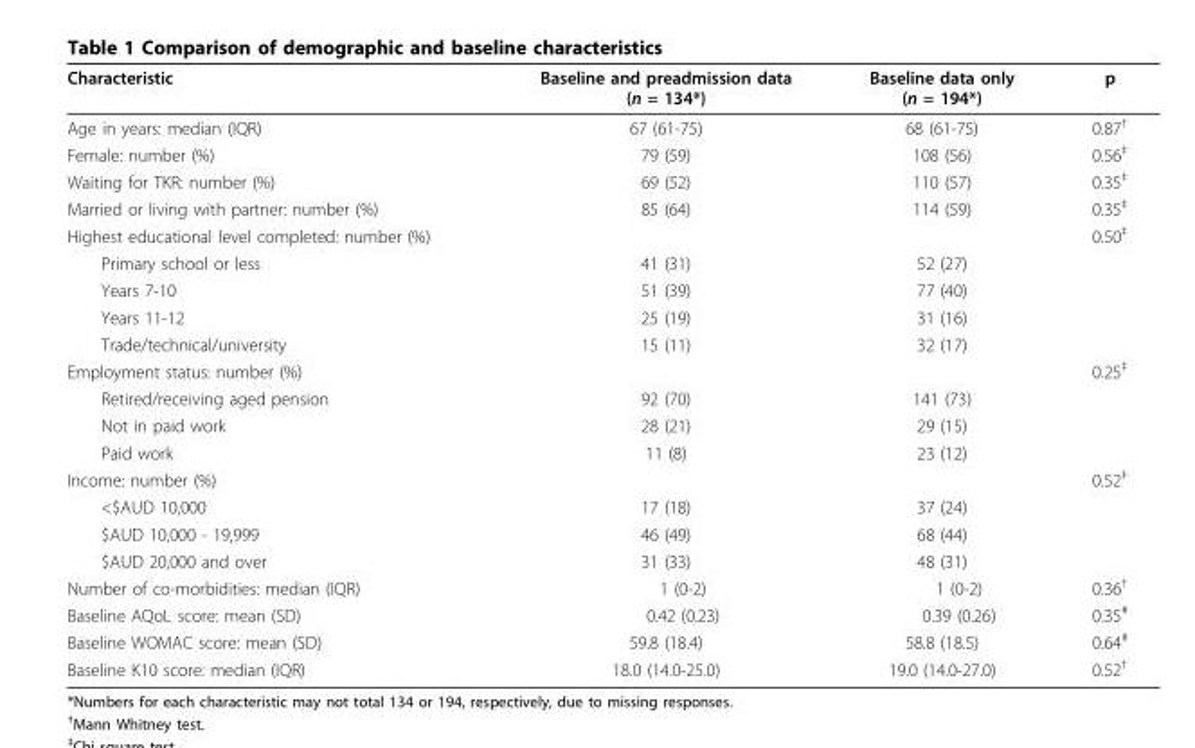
<table><thead><tr><td>Characteristic</td><td>Baseline and preadmission data (n = 134*)</td><td>Baseline data only (n = 194*)</td><td>p</td></tr></thead><tbody><tr><td>Age in years: median (IQR)</td><td>67 (61-75)</td><td>68 (61-75)</td><td>0.87<sup>†</sup></td></tr><tr><td>Female: number (%)</td><td>79 (59)</td><td>108 (56)</td><td>0.56<sup>‡</sup></td></tr><tr><td>Waiting for TKR: number (%)</td><td>69 (52)</td><td>110 (57)</td><td>0.35<sup>‡</sup></td></tr><tr><td>Married or living with partner: number (%)</td><td>85 (64)</td><td>114 (59)</td><td>0.35<sup>‡</sup></td></tr><tr><td>Highest educational level completed: number (%)</td><td></td><td></td><td>0.50<sup>‡</sup></td></tr><tr><td>Primary school or less</td><td>41 (31)</td><td>52 (27)</td><td></td></tr><tr><td>Years 7-10</td><td>51 (39)</td><td>77 (40)</td><td></td></tr><tr><td>Years 11-12</td><td>25 (19)</td><td>31 (16)</td><td></td></tr><tr><td>Trade/technical/university</td><td>15 (11)</td><td>32 (17)</td><td></td></tr><tr><td>Employment status: number (%)</td><td></td><td></td><td>0.25<sup>‡</sup></td></tr><tr><td>Retired/receiving aged pension</td><td>92 (70)</td><td>141 (73)</td><td></td></tr><tr><td>Not in paid work</td><td>28 (21)</td><td>29 (15)</td><td></td></tr><tr><td>Paid work</td><td>11 (8)</td><td>23 (12)</td><td></td></tr><tr><td>Income: number (%)</td><td></td><td></td><td>0.52<sup>‡</sup></td></tr><tr><td>&lt;$AUD 10,000</td><td>17 (18)</td><td>37 (24)</td><td></td></tr><tr><td>$AUD 10,000 - 19,999</td><td>46 (49)</td><td>68 (44)</td><td></td></tr><tr><td>$AUD 20,000 and over</td><td>31 (33)</td><td>48 (31)</td><td></td></tr><tr><td>Number of co-morbidities: median (IQR)</td><td>1 (0-2)</td><td>1 (0-2)</td><td>0.36<sup>†</sup></td></tr><tr><td>Baseline AQoL score: mean (SD)</td><td>0.42 (0.23)</td><td>0.39 (0.26)</td><td>0.35<sup>#</sup></td></tr><tr><td>Baseline WOMAC score: mean (SD)</td><td>59.8 (18.4)</td><td>58.8 (18.5)</td><td>0.64<sup>#</sup></td></tr><tr><td>Baseline K10 score: median (IQR)</td><td>18.0 (14.0-25.0)</td><td>19.0 (14.0-27.0)</td><td>0.52<sup>†</sup></td></tr></tbody></table>